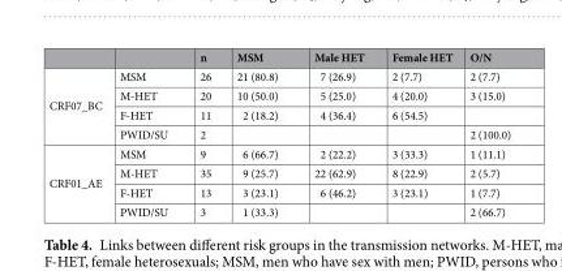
<table><thead><tr><td></td><td></td><td>n</td><td>MSM</td><td>Male HET</td><td>Female HET</td><td>O/N</td></tr></thead><tbody><tr><td rowspan="4">CRF07_BC</td><td>MSM</td><td>26</td><td>21 (80.8)</td><td>7 (26.9)</td><td>2 (7.7)</td><td>2 (7.7)</td></tr><tr><td>M-HET</td><td>20</td><td>10 (50.0)</td><td>5 (25.0)</td><td>4 (20.0)</td><td>3 (15.0)</td></tr><tr><td>F-HET</td><td>11</td><td>2 (18.2)</td><td>4 (36.4)</td><td>6 (54.5)</td><td></td></tr><tr><td>PWID/SU</td><td>2</td><td></td><td></td><td></td><td>2 (100.0)</td></tr><tr><td rowspan="4">CRF01_AE</td><td>MSM</td><td>9</td><td>6 (66.7)</td><td>2 (22.2)</td><td>3 (33.3)</td><td>1 (11.1)</td></tr><tr><td>M-HET</td><td>35</td><td>9 (25.7)</td><td>22 (62.9)</td><td>8 (22.9)</td><td>2 (5.7)</td></tr><tr><td>F-HET</td><td>13</td><td>3 (23.1)</td><td>6 (46.2)</td><td>3 (23.1)</td><td>1 (7.7)</td></tr><tr><td>PWID/SU</td><td>3</td><td>1 (33.3)</td><td></td><td></td><td>2 (66.7)</td></tr></tbody></table>